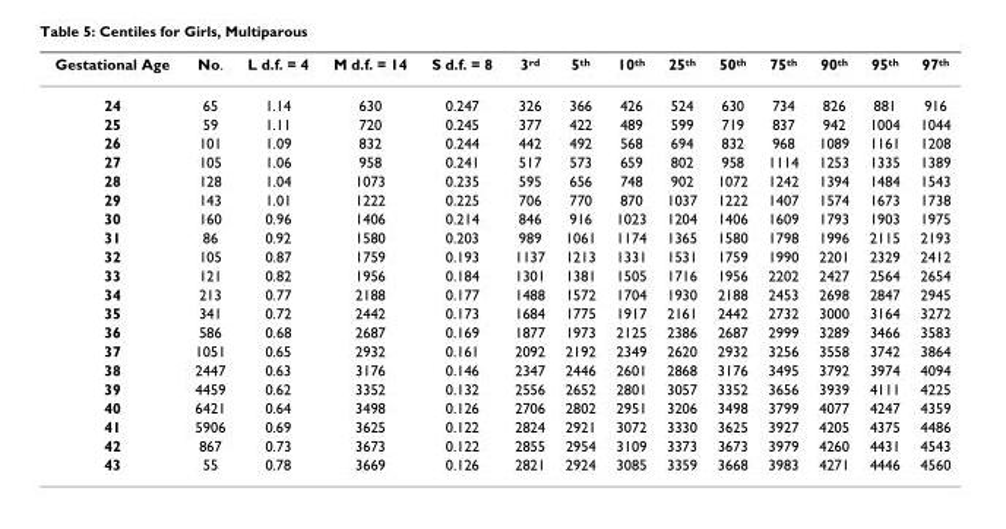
<table><thead><tr><td>Gestational Age</td><td>No.</td><td>L d.f. = 4</td><td>M d.f. = 14</td><td>S d.f. = 8</td><td>3<sup>rd</sup></td><td>5<sup>th</sup></td><td>10<sup>th</sup></td><td>25<sup>th</sup></td><td>50<sup>th</sup></td><td>75<sup>th</sup></td><td>90<sup>th</sup></td><td>95<sup>th</sup></td><td>97<sup>th</sup></td></tr></thead><tbody><tr><td>24</td><td>65</td><td>1.14</td><td>630</td><td>0.247</td><td>326</td><td>366</td><td>426</td><td>524</td><td>630</td><td>734</td><td>826</td><td>881</td><td>916</td></tr><tr><td>25</td><td>59</td><td>1.11</td><td>720</td><td>0.245</td><td>377</td><td>422</td><td>489</td><td>599</td><td>719</td><td>837</td><td>942</td><td>1004</td><td>1044</td></tr><tr><td>26</td><td>101</td><td>1.09</td><td>832</td><td>0.244</td><td>442</td><td>492</td><td>568</td><td>694</td><td>832</td><td>968</td><td>1089</td><td>1161</td><td>1208</td></tr><tr><td>27</td><td>105</td><td>1.06</td><td>958</td><td>0.241</td><td>517</td><td>573</td><td>659</td><td>802</td><td>958</td><td>1114</td><td>1253</td><td>1335</td><td>1389</td></tr><tr><td>28</td><td>128</td><td>1.04</td><td>1073</td><td>0.235</td><td>595</td><td>656</td><td>748</td><td>902</td><td>1072</td><td>1242</td><td>1394</td><td>1484</td><td>1543</td></tr><tr><td>29</td><td>143</td><td>1.01</td><td>1222</td><td>0.225</td><td>706</td><td>770</td><td>870</td><td>1037</td><td>1222</td><td>1407</td><td>1574</td><td>1673</td><td>1738</td></tr><tr><td>30</td><td>160</td><td>0.96</td><td>1406</td><td>0.214</td><td>846</td><td>916</td><td>1023</td><td>1204</td><td>1406</td><td>1609</td><td>1793</td><td>1903</td><td>1975</td></tr><tr><td>31</td><td>86</td><td>0.92</td><td>1580</td><td>0.203</td><td>989</td><td>1061</td><td>1174</td><td>1365</td><td>1580</td><td>1798</td><td>1996</td><td>2115</td><td>2193</td></tr><tr><td>32</td><td>105</td><td>0.87</td><td>1759</td><td>0.193</td><td>1137</td><td>1213</td><td>1331</td><td>1531</td><td>1759</td><td>1990</td><td>2201</td><td>2329</td><td>2412</td></tr><tr><td>33</td><td>121</td><td>0.82</td><td>1956</td><td>0.184</td><td>1301</td><td>1381</td><td>1505</td><td>1716</td><td>1956</td><td>2202</td><td>2427</td><td>2564</td><td>2654</td></tr><tr><td>34</td><td>213</td><td>0.77</td><td>2188</td><td>0.177</td><td>1488</td><td>1572</td><td>1704</td><td>1930</td><td>2188</td><td>2453</td><td>2698</td><td>2847</td><td>2945</td></tr><tr><td>35</td><td>341</td><td>0.72</td><td>2442</td><td>0.173</td><td>1684</td><td>1775</td><td>1917</td><td>2161</td><td>2442</td><td>2732</td><td>3000</td><td>3164</td><td>3272</td></tr><tr><td>36</td><td>586</td><td>0.68</td><td>2687</td><td>0.169</td><td>1877</td><td>1973</td><td>2125</td><td>2386</td><td>2687</td><td>2999</td><td>3289</td><td>3466</td><td>3583</td></tr><tr><td>37</td><td>1051</td><td>0.65</td><td>2932</td><td>0.161</td><td>2092</td><td>2192</td><td>2349</td><td>2620</td><td>2932</td><td>3256</td><td>3558</td><td>3742</td><td>3864</td></tr><tr><td>38</td><td>2447</td><td>0.63</td><td>3176</td><td>0.146</td><td>2347</td><td>2446</td><td>2601</td><td>2868</td><td>3176</td><td>3495</td><td>3792</td><td>3974</td><td>4094</td></tr><tr><td>39</td><td>4459</td><td>0.62</td><td>3352</td><td>0.132</td><td>2556</td><td>2652</td><td>2801</td><td>3057</td><td>3352</td><td>3656</td><td>3939</td><td>4111</td><td>4225</td></tr><tr><td>40</td><td>6421</td><td>0.64</td><td>3498</td><td>0.126</td><td>2706</td><td>2802</td><td>2951</td><td>3206</td><td>3498</td><td>3799</td><td>4077</td><td>4247</td><td>4359</td></tr><tr><td>41</td><td>5906</td><td>0.69</td><td>3625</td><td>0.122</td><td>2824</td><td>2921</td><td>3072</td><td>3330</td><td>3625</td><td>3927</td><td>4205</td><td>4375</td><td>4486</td></tr><tr><td>42</td><td>867</td><td>0.73</td><td>3673</td><td>0.122</td><td>2855</td><td>2954</td><td>3109</td><td>3373</td><td>3673</td><td>3979</td><td>4260</td><td>4431</td><td>4543</td></tr><tr><td>43</td><td>55</td><td>0.78</td><td>3669</td><td>0.126</td><td>2821</td><td>2924</td><td>3085</td><td>3359</td><td>3668</td><td>3983</td><td>4271</td><td>4446</td><td>4560</td></tr></tbody></table>